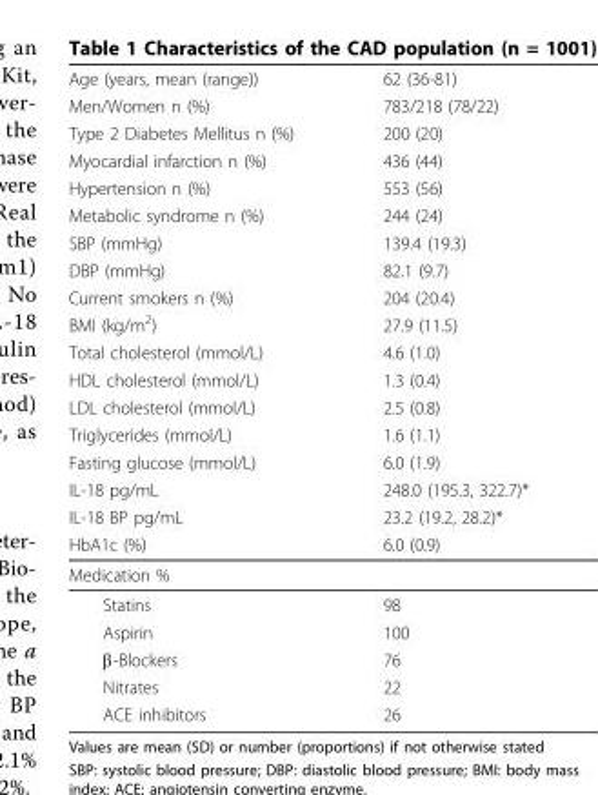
<table><thead><tr><td rowspan="18">Age (years, mean (range)) Men/Women n (%) Type 2 Diabetes Mellitus n (%) Myocardial infarction n (%) Hypertension n (%) Metabolic syndrome n (%) SBP (mmHg) DBP (mmHg) Current smokers n (%) BMI (kg/m2) Total cholesterol (mmol/L) HDL cholesterol (mmol/L) LDL cholesterol (mmol/L) Triglycerides (mmol/L) Fasting glucose (mmol/L) IL-18 pg/mL IL-18 BP pg/mL HbA1c (%)</td><td rowspan="18">62 (36-81) 783/218 (78/22) 200 (20) 436 (44) 553 (56) 244 (24) 139.4 (19.3) 82.1 (9.7) 204 (20.4) 27.9 (11.5) 4.6 (1.0) 1.3 (0.4) 2.5 (0.8) 1.6 (1.1) 6.0 (1.9) 248.0 (195.3, 322.7)* 23.2 (19.2, 28.2)* 6.0 (0.9)</td></tr><tr></tr><tr></tr><tr></tr><tr></tr><tr></tr><tr></tr><tr></tr><tr></tr><tr></tr><tr></tr><tr></tr><tr></tr><tr></tr><tr></tr><tr></tr><tr></tr><tr></tr></thead><tbody><tr><td colspan="2">Medication %</td></tr><tr><td>Statins</td><td>98</td></tr><tr><td>Aspirin</td><td>100</td></tr><tr><td>β-Blockers</td><td>76</td></tr><tr><td>Nitrates</td><td>22</td></tr><tr><td>ACE inhibitors</td><td>26</td></tr></tbody></table>